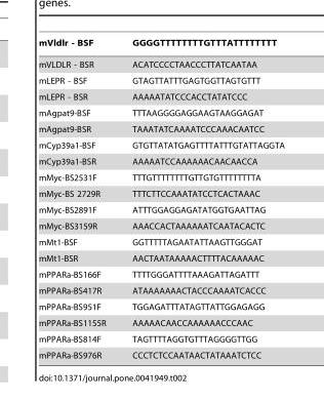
<table><thead><tr><td>mVldlr - BSF</td><td>GGGGTTTTTTTTGTTTATTTTTTTT</td></tr></thead><tbody><tr><td>mVLDLR - BSR</td><td>ACATCCCCTAACCCTTATCAATAA</td></tr><tr><td>mLEPR - BSF</td><td>GTAGTTATTTGAGTGGTTAGTGTTT</td></tr><tr><td>mLEPR - BSR</td><td>AAAAATATCCCACCTATATCCC</td></tr><tr><td>mAgpat9-BSF</td><td>TTTAAGGGGAGGAAGTAAGGAGAT</td></tr><tr><td>mAgpat9-BSR</td><td>TAAATATCAAAATCCCAAACAATCC</td></tr><tr><td>mCyp39a1-BSF</td><td>GTGTTATATGAGTTTTATTTGTATTAGGTA</td></tr><tr><td>mCyp39a1-BSR</td><td>AAAAATCCAAAAAACAACAACCA</td></tr><tr><td>mMyc-BS2531F</td><td>TTTGTTTTTTTTGTTGTGTTTTTTTTA</td></tr><tr><td>mMyc-BS 2729R</td><td>TTTCTTCCAAATATCCTCACTAAAC</td></tr><tr><td>mMyc-BS2891F</td><td>ATTTGGAGGAGATATGGTGAATTAG</td></tr><tr><td>mMyc-BS3159R</td><td>AAACCACTAAAAAATCAATACACTC</td></tr><tr><td>mMt1-BSF</td><td>GGTTTTTAGAATATTAAGTTGGGAT</td></tr><tr><td>mMt1-BSR</td><td>AACTAATAAAAACTTTTACAAAAAC</td></tr><tr><td>mPPARa-BS166F</td><td>TTTTGGGATTTTAAAGATTAGATTT</td></tr><tr><td>mPPARa-BS417R</td><td>ATAAAAAAACTACCCAAAATCACCC</td></tr><tr><td>mPPARa-BS951F</td><td>TGGAGATTTATAGTTATTGGAGAGG</td></tr><tr><td>mPPARa-BS1155R</td><td>AAAAACAACCAAAAAACCCAAC</td></tr><tr><td>mPPARa-BS814F</td><td>TAGTTTTAGGTGTTTAGGGGTTGG</td></tr><tr><td>mPPARa-BS976R</td><td>CCCTCTCCAATAACTATAAATCTCC</td></tr></tbody></table>